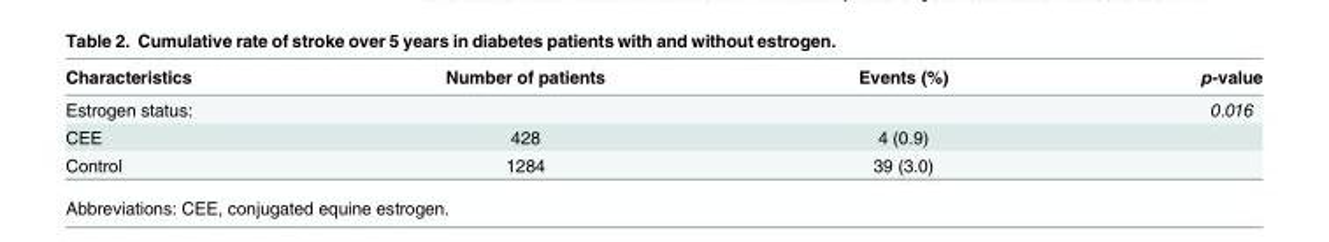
<table><thead><tr><td>Characteristics</td><td>Number of patients</td><td>Events (%)</td><td>p-value</td></tr></thead><tbody><tr><td>Estrogen status:</td><td></td><td></td><td>0.016</td></tr><tr><td>CEE</td><td>428</td><td>4 (0.9)</td><td></td></tr><tr><td>Control</td><td>1284</td><td>39 (3.0)</td><td></td></tr></tbody></table>